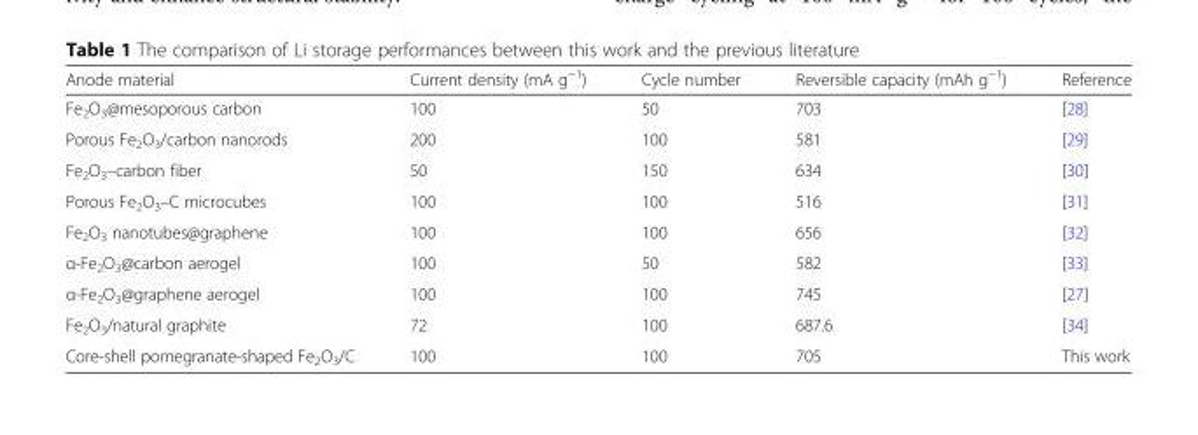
<table><thead><tr><td>Anode material</td><td>Current density (mA g<sup>−1</sup>)</td><td>Cycle number</td><td>Reversible capacity (mAh g<sup>−1</sup>)</td><td>Reference</td></tr></thead><tbody><tr><td>Fe<sub>2</sub>O<sub>3</sub>@mesoporous carbon</td><td>100</td><td>50</td><td>703</td><td>[28]</td></tr><tr><td>Porous Fe<sub>2</sub>O<sub>3</sub>/carbon nanorods</td><td>200</td><td>100</td><td>581</td><td>[29]</td></tr><tr><td>Fe<sub>2</sub>O<sub>3</sub>–carbon fiber</td><td>50</td><td>150</td><td>634</td><td>[30]</td></tr><tr><td>Porous Fe<sub>2</sub>O<sub>3</sub>–C microcubes</td><td>100</td><td>100</td><td>516</td><td>[31]</td></tr><tr><td>Fe<sub>2</sub>O<sub>3</sub> nanotubes@graphene</td><td>100</td><td>100</td><td>656</td><td>[32]</td></tr><tr><td>α-Fe<sub>2</sub>O<sub>3</sub>@carbon aerogel</td><td>100</td><td>50</td><td>582</td><td>[33]</td></tr><tr><td>α-Fe<sub>2</sub>O<sub>3</sub>@graphene aerogel</td><td>100</td><td>100</td><td>745</td><td>[27]</td></tr><tr><td>Fe<sub>2</sub>O<sub>3</sub>/natural graphite</td><td>72</td><td>100</td><td>687.6</td><td>[34]</td></tr><tr><td>Core-shell pomegranate-shaped Fe<sub>2</sub>O<sub>3</sub>/C</td><td>100</td><td>100</td><td>705</td><td>This work</td></tr></tbody></table>